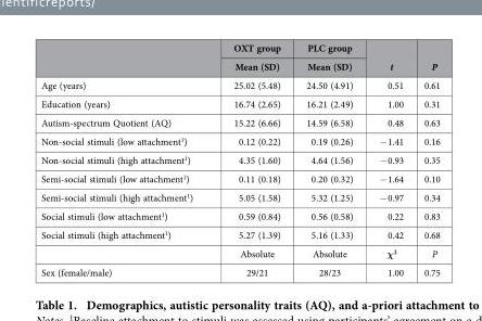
<table><thead><tr><td rowspan="2"></td><td rowspan="2">OXT group Mean (SD)</td><td rowspan="2">PLC group Mean (SD)</td><td rowspan="2">t</td><td rowspan="2">P</td></tr><tr></tr></thead><tbody><tr><td>Age (years)</td><td>25.02 (5.48)</td><td>24.50 (4.91)</td><td>0.51</td><td>0.61</td></tr><tr><td>Education (years)</td><td>16.74 (2.65)</td><td>16.21 (2.49)</td><td>1.00</td><td>0.31</td></tr><tr><td>Autism-spectrum Quotient (AQ)</td><td>15.22 (6.66)</td><td>14.59 (6.58)</td><td>0.48</td><td>0.63</td></tr><tr><td>Non-social stimuli (low attachment<sup>1</sup>)</td><td>0.12 (0.22)</td><td>0.19 (0.26)</td><td>− 1.41</td><td>0.16</td></tr><tr><td>Non-social stimuli (high attachment<sup>1</sup>)</td><td>4.35 (1.60)</td><td>4.64 (1.56)</td><td>− 0.93</td><td>0.35</td></tr><tr><td>Semi-social stimuli (low attachment<sup>1</sup>)</td><td>0.11 (0.18)</td><td>0.20 (0.32)</td><td>− 1.64</td><td>0.10</td></tr><tr><td>Semi-social stimuli (high attachment<sup>1</sup>)</td><td>5.05 (1.58)</td><td>5.32 (1.25)</td><td>− 0.97</td><td>0.34</td></tr><tr><td>Social stimuli (low attachment<sup>1</sup>)</td><td>0.59 (0.84)</td><td>0.56 (0.58)</td><td>0.22</td><td>0.83</td></tr><tr><td rowspan="2">Social stimuli (high attachment<sup>1</sup>)</td><td>5.27 (1.39)</td><td>5.16 (1.33)</td><td>0.42</td><td>0.68</td></tr><tr><td>Absolute</td><td>Absolute</td><td>χ<sup>2</sup></td><td>P</td></tr><tr><td>Sex (female/male)</td><td>29/21</td><td>28/23</td><td>1.00</td><td>0.75</td></tr></tbody></table>